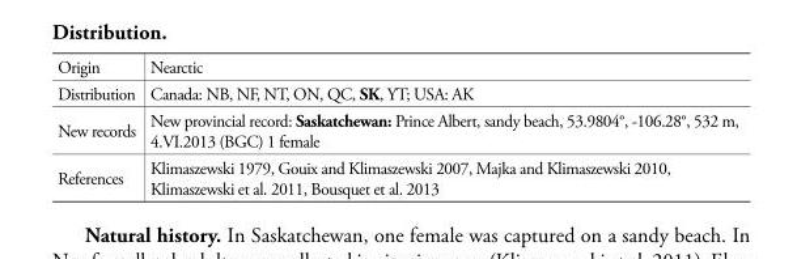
<table><tbody><tr><td>Origin</td><td>Nearctic</td></tr><tr><td>Distribution</td><td>Canada: NB, NF, NT, ON, QC, SK, YT; USA: AK</td></tr><tr><td>New records</td><td>New provincial record: Saskatchewan: Prince Albert, sandy beach, 53.9804°, -106.28°, 532 m, 4.VI.2013 (BGC) 1 female</td></tr><tr><td>References</td><td>Klimaszewski 1979, Gouix and Klimaszewski 2007, Majka and Klimaszewski 2010, Klimaszewski et al. 2011, Bousquet et al. 2013</td></tr></tbody></table>